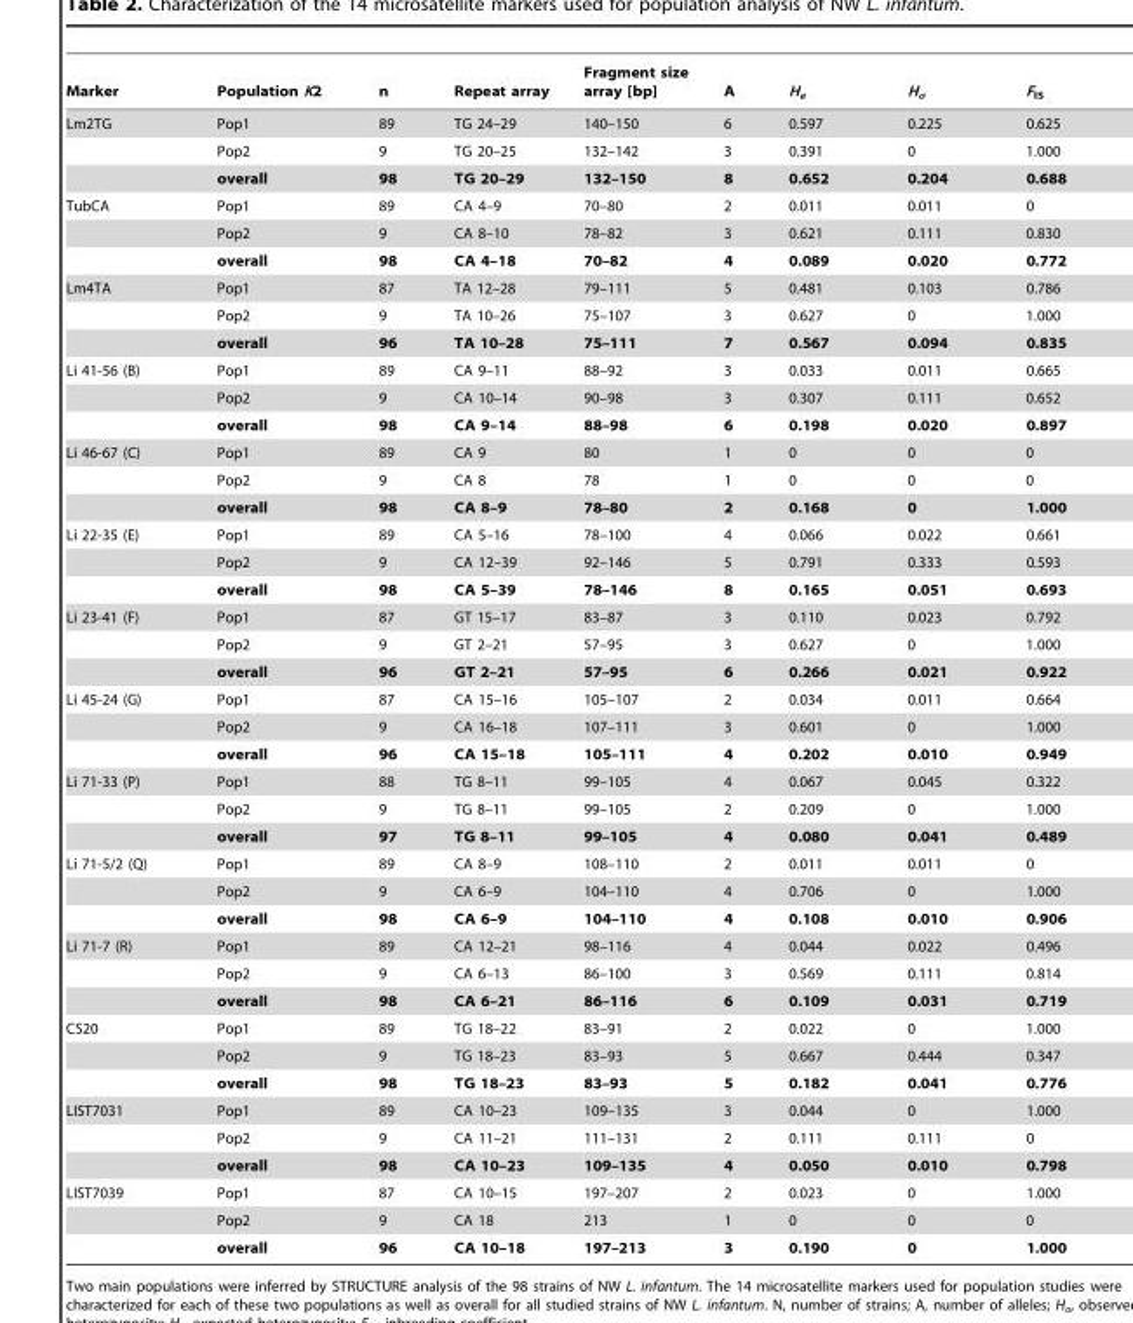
<table><thead><tr><td>Marker</td><td>Population K2</td><td>n</td><td>Repeat array</td><td>Fragment size array [bp]</td><td>A</td><td>H<sub>e</sub></td><td>H<sub>o</sub></td><td>F<sub>IS</sub></td></tr></thead><tbody><tr><td rowspan="3">Lm2TG</td><td>Pop1</td><td>89</td><td>TG 24–29</td><td>140–150</td><td>6</td><td>0.597</td><td>0.225</td><td>0.625</td></tr><tr><td>Pop2</td><td>9</td><td>TG 20–25</td><td>132–142</td><td>3</td><td>0.391</td><td>0</td><td>1.000</td></tr><tr><td>overall</td><td>98</td><td>TG 20–29</td><td>132–150</td><td>8</td><td>0.652</td><td>0.204</td><td>0.688</td></tr><tr><td rowspan="3">TubCA</td><td>Pop1</td><td>89</td><td>CA 4–9</td><td>70–80</td><td>2</td><td>0.011</td><td>0.011</td><td>0</td></tr><tr><td>Pop2</td><td>9</td><td>CA 8–10</td><td>78–82</td><td>3</td><td>0.621</td><td>0.111</td><td>0.830</td></tr><tr><td>overall</td><td>98</td><td>CA 4–18</td><td>70–82</td><td>4</td><td>0.089</td><td>0.020</td><td>0.772</td></tr><tr><td rowspan="3">Lm4TA</td><td>Pop1</td><td>87</td><td>TA 12–28</td><td>79–111</td><td>5</td><td>0.481</td><td>0.103</td><td>0.786</td></tr><tr><td>Pop2</td><td>9</td><td>TA 10–26</td><td>75–107</td><td>3</td><td>0.627</td><td>0</td><td>1.000</td></tr><tr><td>overall</td><td>96</td><td>TA 10–28</td><td>75–111</td><td>7</td><td>0.567</td><td>0.094</td><td>0.835</td></tr><tr><td rowspan="3">Li 41-56 (B)</td><td>Pop1</td><td>89</td><td>CA 9–11</td><td>88–92</td><td>3</td><td>0.033</td><td>0.011</td><td>0.665</td></tr><tr><td>Pop2</td><td>9</td><td>CA 10–14</td><td>90–98</td><td>3</td><td>0.307</td><td>0.111</td><td>0.652</td></tr><tr><td>overall</td><td>98</td><td>CA 9–14</td><td>88–98</td><td>6</td><td>0.198</td><td>0.020</td><td>0.897</td></tr><tr><td rowspan="3">Li 46-67 (C)</td><td>Pop1</td><td>89</td><td>CA 9</td><td>80</td><td>1</td><td>0</td><td>0</td><td>0</td></tr><tr><td>Pop2</td><td>9</td><td>CA 8</td><td>78</td><td>1</td><td>0</td><td>0</td><td>0</td></tr><tr><td>overall</td><td>98</td><td>CA 8–9</td><td>78–80</td><td>2</td><td>0.168</td><td>0</td><td>1.000</td></tr><tr><td rowspan="3">Li 22-35 (E)</td><td>Pop1</td><td>89</td><td>CA 5–16</td><td>78–100</td><td>4</td><td>0.066</td><td>0.022</td><td>0.661</td></tr><tr><td>Pop2</td><td>9</td><td>CA 12–39</td><td>92–146</td><td>5</td><td>0.791</td><td>0.333</td><td>0.593</td></tr><tr><td>overall</td><td>98</td><td>CA 5–39</td><td>78–146</td><td>8</td><td>0.165</td><td>0.051</td><td>0.693</td></tr><tr><td rowspan="3">Li 23-41 (F)</td><td>Pop1</td><td>87</td><td>GT 15–17</td><td>83–87</td><td>3</td><td>0.110</td><td>0.023</td><td>0.792</td></tr><tr><td>Pop2</td><td>9</td><td>GT 2–21</td><td>57–95</td><td>3</td><td>0.627</td><td>0</td><td>1.000</td></tr><tr><td>overall</td><td>96</td><td>GT 2–21</td><td>57–95</td><td>6</td><td>0.266</td><td>0.021</td><td>0.922</td></tr><tr><td rowspan="3">Li 45-24 (G)</td><td>Pop1</td><td>87</td><td>CA 15–16</td><td>105–107</td><td>2</td><td>0.034</td><td>0.011</td><td>0.664</td></tr><tr><td>Pop2</td><td>9</td><td>CA 16–18</td><td>107–111</td><td>3</td><td>0.601</td><td>0</td><td>1.000</td></tr><tr><td>overall</td><td>96</td><td>CA 15–18</td><td>105–111</td><td>4</td><td>0.202</td><td>0.010</td><td>0.949</td></tr><tr><td rowspan="3">Li 71-33 (P)</td><td>Pop1</td><td>88</td><td>TG 8–11</td><td>99–105</td><td>4</td><td>0.067</td><td>0.045</td><td>0.322</td></tr><tr><td>Pop2</td><td>9</td><td>TG 8–11</td><td>99–105</td><td>2</td><td>0.209</td><td>0</td><td>1.000</td></tr><tr><td>overall</td><td>97</td><td>TG 8–11</td><td>99–105</td><td>4</td><td>0.080</td><td>0.041</td><td>0.489</td></tr><tr><td rowspan="3">Li 71-5/2 (Q)</td><td>Pop1</td><td>89</td><td>CA 8–9</td><td>108–110</td><td>2</td><td>0.011</td><td>0.011</td><td>0</td></tr><tr><td>Pop2</td><td>9</td><td>CA 6–9</td><td>104–110</td><td>4</td><td>0.706</td><td>0</td><td>1.000</td></tr><tr><td>overall</td><td>98</td><td>CA 6–9</td><td>104–110</td><td>4</td><td>0.108</td><td>0.010</td><td>0.906</td></tr><tr><td rowspan="3">Li 71-7 (R)</td><td>Pop1</td><td>89</td><td>CA 12–21</td><td>98–116</td><td>4</td><td>0.044</td><td>0.022</td><td>0.496</td></tr><tr><td>Pop2</td><td>9</td><td>CA 6–13</td><td>86–100</td><td>3</td><td>0.569</td><td>0.111</td><td>0.814</td></tr><tr><td>overall</td><td>98</td><td>CA 6–21</td><td>86–116</td><td>6</td><td>0.109</td><td>0.031</td><td>0.719</td></tr><tr><td rowspan="3">CS20</td><td>Pop1</td><td>89</td><td>TG 18–22</td><td>83–91</td><td>2</td><td>0.022</td><td>0</td><td>1.000</td></tr><tr><td>Pop2</td><td>9</td><td>TG 18–23</td><td>83–93</td><td>5</td><td>0.667</td><td>0.444</td><td>0.347</td></tr><tr><td>overall</td><td>98</td><td>TG 18–23</td><td>83–93</td><td>5</td><td>0.182</td><td>0.041</td><td>0.776</td></tr><tr><td rowspan="3">LIST7031</td><td>Pop1</td><td>89</td><td>CA 10–23</td><td>109–135</td><td>3</td><td>0.044</td><td>0</td><td>1.000</td></tr><tr><td>Pop2</td><td>9</td><td>CA 11–21</td><td>111–131</td><td>2</td><td>0.111</td><td>0.111</td><td>0</td></tr><tr><td>overall</td><td>98</td><td>CA 10–23</td><td>109–135</td><td>4</td><td>0.050</td><td>0.010</td><td>0.798</td></tr><tr><td rowspan="3">LIST7039</td><td>Pop1</td><td>87</td><td>CA 10–15</td><td>197–207</td><td>2</td><td>0.023</td><td>0</td><td>1.000</td></tr><tr><td>Pop2</td><td>9</td><td>CA 18</td><td>213</td><td>1</td><td>0</td><td>0</td><td>0</td></tr><tr><td>overall</td><td>96</td><td>CA 10–18</td><td>197–213</td><td>3</td><td>0.190</td><td>0</td><td>1.000</td></tr></tbody></table>